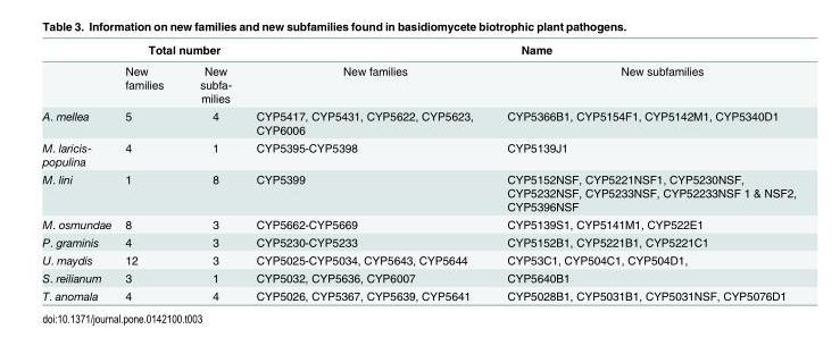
<table><thead><tr><td rowspan="2"></td><td colspan="2">Total number</td><td colspan="2">Name</td></tr><tr><td>New families</td><td>New subfa- milies</td><td>New families</td><td>New subfamilies</td></tr></thead><tbody><tr><td>A. mellea</td><td>5</td><td>4</td><td>CYP5417, CYP5431, CYP5622, CYP5623, CYP6006</td><td>CYP5366B1, CYP5154F1, CYP5142M1, CYP5340D1</td></tr><tr><td>M. laricis- populina</td><td>4</td><td>1</td><td>CYP5395-CYP5398</td><td>CYP5139J1</td></tr><tr><td>M. lini</td><td>1</td><td>8</td><td>CYP5399</td><td>CYP5152NSF, CYP5221NSF1, CYP5230NSF, CYP5232NSF, CYP5233NSF, CYP52233NSF 1 &amp; NSF2, CYP5396NSF</td></tr><tr><td>M. osmundae</td><td>8</td><td>3</td><td>CYP5662-CYP5669</td><td>CYP5139S1, CYP5141M1, CYP522E1</td></tr><tr><td>P. graminis</td><td>4</td><td>3</td><td>CYP5230-CYP5233</td><td>CYP5152B1, CYP5221B1, CYP5221C1</td></tr><tr><td>U. maydis</td><td>12</td><td>3</td><td>CYP5025-CYP5034, CYP5643, CYP5644</td><td>CYP53C1, CYP504C1, CYP504D1,</td></tr><tr><td>S. reilianum</td><td>3</td><td>1</td><td>CYP5032, CYP5636, CYP6007</td><td>CYP5640B1</td></tr><tr><td>T. anomala</td><td>4</td><td>4</td><td>CYP5026, CYP5367, CYP5639, CYP5641</td><td>CYP5028B1, CYP5031B1, CYP5031NSF, CYP5076D1</td></tr></tbody></table>